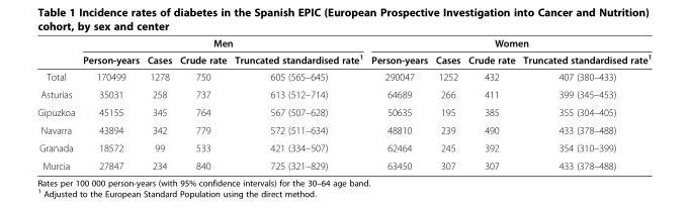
<table><thead><tr><td rowspan="2"></td><td colspan="4">Men</td><td colspan="4">Women</td></tr><tr><td>Person-years</td><td>Cases</td><td>Crude rate</td><td>Truncated standardised rate<sup>1</sup></td><td>Person-years</td><td>Cases</td><td>Crude rate</td><td>Truncated standardised rate<sup>1</sup></td></tr></thead><tbody><tr><td>Total</td><td>170499</td><td>1278</td><td>750</td><td>605 (565–645)</td><td>290047</td><td>1252</td><td>432</td><td>407 (380–433)</td></tr><tr><td>Asturias</td><td>35031</td><td>258</td><td>737</td><td>613 (512–714)</td><td>64689</td><td>266</td><td>411</td><td>399 (345–453)</td></tr><tr><td>Gipuzkoa</td><td>45155</td><td>345</td><td>764</td><td>567 (507–628)</td><td>50635</td><td>195</td><td>385</td><td>355 (304–405)</td></tr><tr><td>Navarra</td><td>43894</td><td>342</td><td>779</td><td>572 (511–634)</td><td>48810</td><td>239</td><td>490</td><td>433 (378–488)</td></tr><tr><td>Granada</td><td>18572</td><td>99</td><td>533</td><td>421 (334–507)</td><td>62464</td><td>245</td><td>392</td><td>354 (310–399)</td></tr><tr><td>Murcia</td><td>27847</td><td>234</td><td>840</td><td>725 (321–829)</td><td>63450</td><td>307</td><td>307</td><td>433 (378–488)</td></tr></tbody></table>